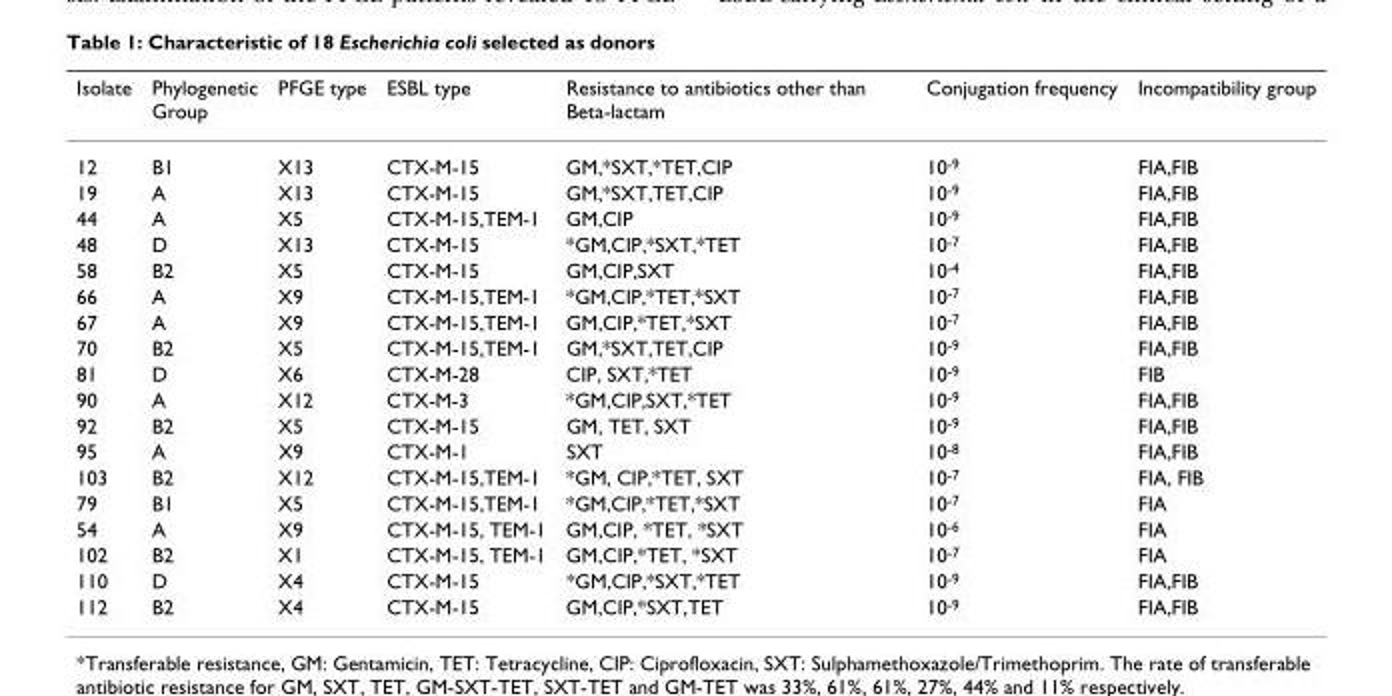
<table><thead><tr><td>Isolate</td><td>Phylogenetic Group</td><td>PFGE type</td><td>ESBL type</td><td>Resistance to antibiotics other than Beta-lactam</td><td>Conjugation frequency</td><td>Incompatibility group</td></tr></thead><tbody><tr><td>12</td><td>B1</td><td>X13</td><td>CTX-M-15</td><td>GM,*SXT,*TET,CIP</td><td>10<sup>-9</sup></td><td>FIA,FIB</td></tr><tr><td>19</td><td>A</td><td>X13</td><td>CTX-M-15</td><td>GM,*SXT,TET,CIP</td><td>10<sup>-9</sup></td><td>FIA,FIB</td></tr><tr><td>44</td><td>A</td><td>X5</td><td>CTX-M-15,TEM-1</td><td>GM,CIP</td><td>10<sup>-9</sup></td><td>FIA,FIB</td></tr><tr><td>48</td><td>D</td><td>X13</td><td>CTX-M-15</td><td>*GM,CIP,*SXT,*TET</td><td>10<sup>-7</sup></td><td>FIA,FIB</td></tr><tr><td>58</td><td>B2</td><td>X5</td><td>CTX-M-15</td><td>GM,CIP,SXT</td><td>10<sup>-4</sup></td><td>FIA,FIB</td></tr><tr><td>66</td><td>A</td><td>X9</td><td>CTX-M-15,TEM-1</td><td>*GM,CIP,*TET,*SXT</td><td>10<sup>-7</sup></td><td>FIA,FIB</td></tr><tr><td>67</td><td>A</td><td>X9</td><td>CTX-M-15,TEM-1</td><td>GM,CIP,*TET,*SXT</td><td>10<sup>-7</sup></td><td>FIA,FIB</td></tr><tr><td>70</td><td>B2</td><td>X5</td><td>CTX-M-15,TEM-1</td><td>GM,*SXT,TET,CIP</td><td>10<sup>-9</sup></td><td>FIA,FIB</td></tr><tr><td>81</td><td>D</td><td>X6</td><td>CTX-M-28</td><td>CIP, SXT,*TET</td><td>10<sup>-9</sup></td><td>FIB</td></tr><tr><td>90</td><td>A</td><td>X12</td><td>CTX-M-3</td><td>*GM,CIP,SXT,*TET</td><td>10<sup>-9</sup></td><td>FIA,FIB</td></tr><tr><td>92</td><td>B2</td><td>X5</td><td>CTX-M-15</td><td>GM, TET, SXT</td><td>10<sup>-9</sup></td><td>FIA,FIB</td></tr><tr><td>95</td><td>A</td><td>X9</td><td>CTX-M-1</td><td>SXT</td><td>10<sup>-8</sup></td><td>FIA,FIB</td></tr><tr><td>103</td><td>B2</td><td>X12</td><td>CTX-M-15,TEM-1</td><td>*GM, CIP,*TET, SXT</td><td>10<sup>-7</sup></td><td>FIA, FIB</td></tr><tr><td>79</td><td>B1</td><td>X5</td><td>CTX-M-15,TEM-1</td><td>*GM,CIP,*TET,*SXT</td><td>10<sup>-7</sup></td><td>FIA</td></tr><tr><td>54</td><td>A</td><td>X9</td><td>CTX-M-15, TEM-1</td><td>GM,CIP, *TET, *SXT</td><td>10<sup>-6</sup></td><td>FIA</td></tr><tr><td>102</td><td>B2</td><td>X1</td><td>CTX-M-15, TEM-1</td><td>GM,CIP,*TET, *SXT</td><td>10<sup>-7</sup></td><td>FIA</td></tr><tr><td>110</td><td>D</td><td>X4</td><td>CTX-M-15</td><td>*GM,CIP,*SXT,*TET</td><td>10<sup>-9</sup></td><td>FIA,FIB</td></tr><tr><td>112</td><td>B2</td><td>X4</td><td>CTX-M-15</td><td>GM,CIP,*SXT,TET</td><td>10<sup>-9</sup></td><td>FIA,FIB</td></tr></tbody></table>